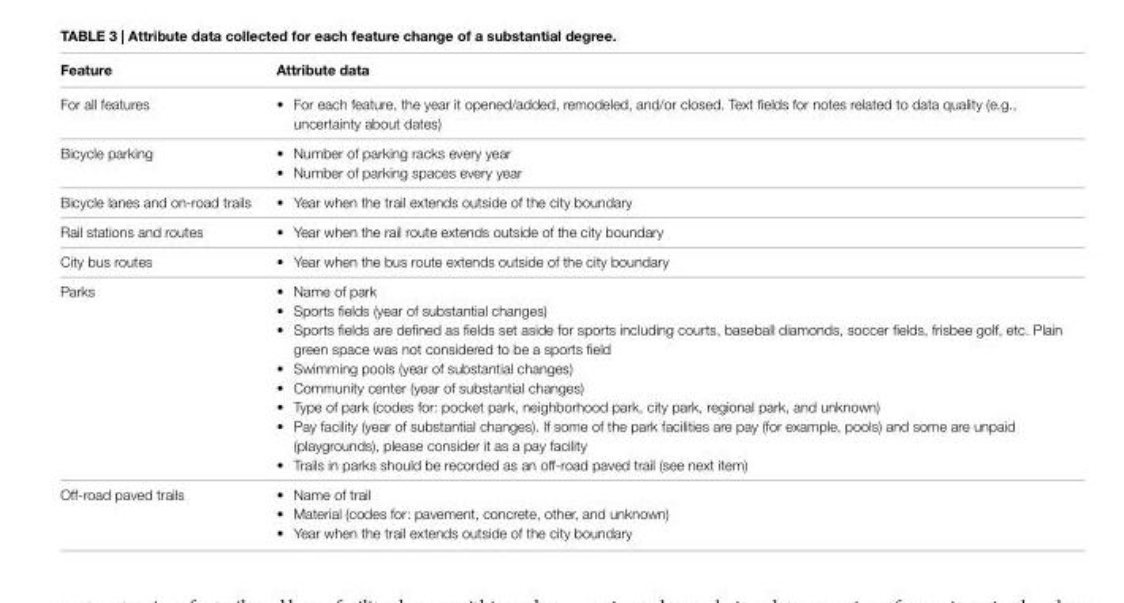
<table><thead><tr><td>Feature</td><td>Attribute data</td></tr></thead><tbody><tr><td>For all features</td><td>• For each feature, the year it opened/added, remodeled, and/or closed. Text fields for notes related to data quality (e.g., uncertainty about dates)</td></tr><tr><td>Bicycle parking</td><td>• Number of parking racks every year • Number of parking spaces every year</td></tr><tr><td>Bicycle lanes and on-road trails</td><td>• Year when the trail extends outside of the city boundary</td></tr><tr><td>Rail stations and routes</td><td>• Year when the rail route extends outside of the city boundary</td></tr><tr><td>City bus routes</td><td>• Year when the bus route extends outside of the city boundary</td></tr><tr><td>Parks</td><td>• Name of park • Sports fields (year of substantial changes) • Sports fields are defined as fields set aside for sports including courts, baseball diamonds, soccer fields, frisbee golf, etc. Plain green space was not considered to be a sports field • Swimming pools (year of substantial changes) • Community center (year of substantial changes) • Type of park (codes for: pocket park, neighborhood park, city park, regional park, and unknown) • Pay facility (year of substantial changes). If some of the park facilities are pay (for example, pools) and some are unpaid (playgrounds), please consider it as a pay facility • Trails in parks should be recorded as an off-road paved trail (see next item)</td></tr><tr><td>Off-road paved trails</td><td>• Name of trail • Material (codes for: pavement, concrete, other, and unknown) • Year when the trail extends outside of the city boundary</td></tr></tbody></table>